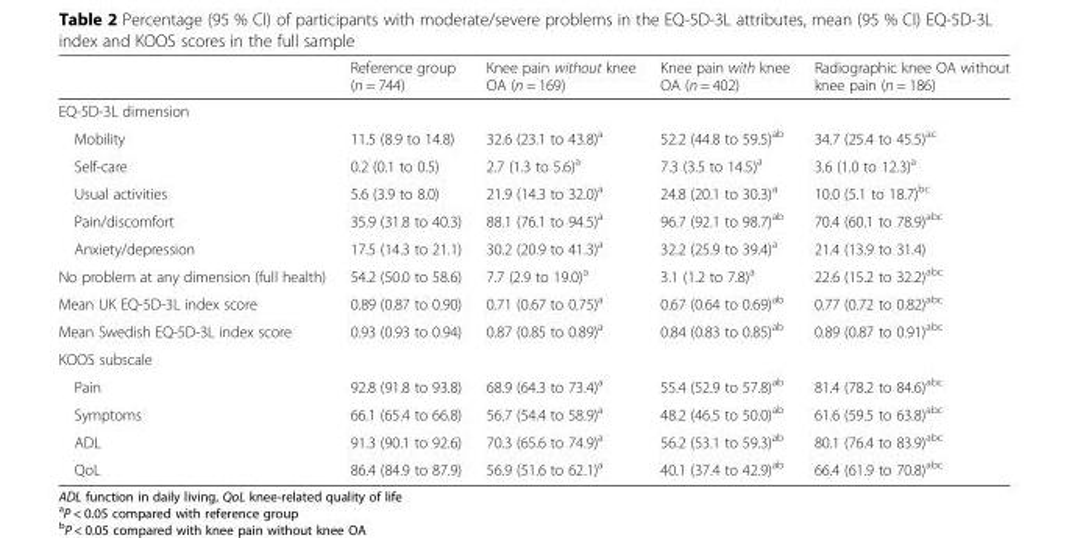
<table><thead><tr><td></td><td>Reference group (n = 744)</td><td>Knee pain without knee OA (n = 169)</td><td>Knee pain with knee OA (n = 402)</td><td>Radiographic knee OA without knee pain (n = 186)</td></tr></thead><tbody><tr><td colspan="5">EQ-5D-3L dimension</td></tr><tr><td>Mobility</td><td>11.5 (8.9 to 14.8)</td><td>32.6 (23.1 to 43.8)<sup>a</sup></td><td>52.2 (44.8 to 59.5)<sup>ab</sup></td><td>34.7 (25.4 to 45.5)<sup>ac</sup></td></tr><tr><td>Self-care</td><td>0.2 (0.1 to 0.5)</td><td>2.7 (1.3 to 5.6)<sup>a</sup></td><td>7.3 (3.5 to 14.5)<sup>a</sup></td><td>3.6 (1.0 to 12.3)<sup>a</sup></td></tr><tr><td>Usual activities</td><td>5.6 (3.9 to 8.0)</td><td>21.9 (14.3 to 32.0)<sup>a</sup></td><td>24.8 (20.1 to 30.3)<sup>a</sup></td><td>10.0 (5.1 to 18.7)<sup>bc</sup></td></tr><tr><td>Pain/discomfort</td><td>35.9 (31.8 to 40.3)</td><td>88.1 (76.1 to 94.5)<sup>a</sup></td><td>96.7 (92.1 to 98.7)<sup>ab</sup></td><td>70.4 (60.1 to 78.9)<sup>abc</sup></td></tr><tr><td>Anxiety/depression</td><td>17.5 (14.3 to 21.1)</td><td>30.2 (20.9 to 41.3)<sup>a</sup></td><td>32.2 (25.9 to 39.4)<sup>a</sup></td><td>21.4 (13.9 to 31.4)</td></tr><tr><td>No problem at any dimension (full health)</td><td>54.2 (50.0 to 58.6)</td><td>7.7 (2.9 to 19.0)<sup>a</sup></td><td>3.1 (1.2 to 7.8)<sup>a</sup></td><td>22.6 (15.2 to 32.2)<sup>abc</sup></td></tr><tr><td>Mean UK EQ-5D-3L index score</td><td>0.89 (0.87 to 0.90)</td><td>0.71 (0.67 to 0.75)<sup>a</sup></td><td>0.67 (0.64 to 0.69)<sup>ab</sup></td><td>0.77 (0.72 to 0.82)<sup>abc</sup></td></tr><tr><td>Mean Swedish EQ-5D-3L index score</td><td>0.93 (0.93 to 0.94)</td><td>0.87 (0.85 to 0.89)<sup>a</sup></td><td>0.84 (0.83 to 0.85)<sup>ab</sup></td><td>0.89 (0.87 to 0.91)<sup>abc</sup></td></tr><tr><td colspan="5">KOOS subscale</td></tr><tr><td>Pain</td><td>92.8 (91.8 to 93.8)</td><td>68.9 (64.3 to 73.4)<sup>a</sup></td><td>55.4 (52.9 to 57.8)<sup>ab</sup></td><td>81.4 (78.2 to 84.6)<sup>abc</sup></td></tr><tr><td>Symptoms</td><td>66.1 (65.4 to 66.8)</td><td>56.7 (54.4 to 58.9)<sup>a</sup></td><td>48.2 (46.5 to 50.0)<sup>ab</sup></td><td>61.6 (59.5 to 63.8)<sup>abc</sup></td></tr><tr><td>ADL</td><td>91.3 (90.1 to 92.6)</td><td>70.3 (65.6 to 74.9)<sup>a</sup></td><td>56.2 (53.1 to 59.3)<sup>ab</sup></td><td>80.1 (76.4 to 83.9)<sup>abc</sup></td></tr><tr><td>QoL</td><td>86.4 (84.9 to 87.9)</td><td>56.9 (51.6 to 62.1)<sup>a</sup></td><td>40.1 (37.4 to 42.9)<sup>ab</sup></td><td>66.4 (61.9 to 70.8)<sup>abc</sup></td></tr></tbody></table>